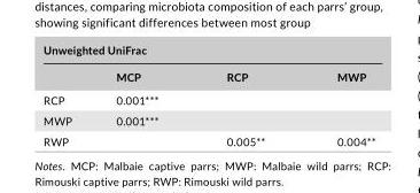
<table><thead><tr><td colspan="4">Unweighted UniFrac</td></tr><tr><td></td><td>MCP</td><td>RCP</td><td>MWP</td></tr></thead><tbody><tr><td>RCP</td><td>0.001***</td><td></td><td></td></tr><tr><td>MWP</td><td>0.001***</td><td></td><td></td></tr><tr><td>RWP</td><td></td><td>0.005**</td><td>0.004**</td></tr></tbody></table>